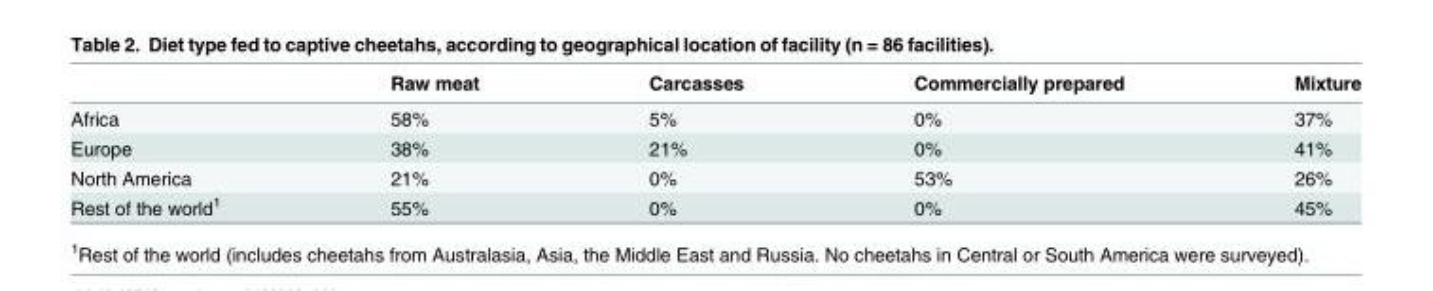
<table><thead><tr><td></td><td>Raw meat</td><td>Carcasses</td><td>Commercially prepared</td><td>Mixture</td></tr></thead><tbody><tr><td>Africa</td><td>58%</td><td>5%</td><td>0%</td><td>37%</td></tr><tr><td>Europe</td><td>38%</td><td>21%</td><td>0%</td><td>41%</td></tr><tr><td>North America</td><td>21%</td><td>0%</td><td>53%</td><td>26%</td></tr><tr><td>Rest of the world<sup>1</sup></td><td>55%</td><td>0%</td><td>0%</td><td>45%</td></tr></tbody></table>